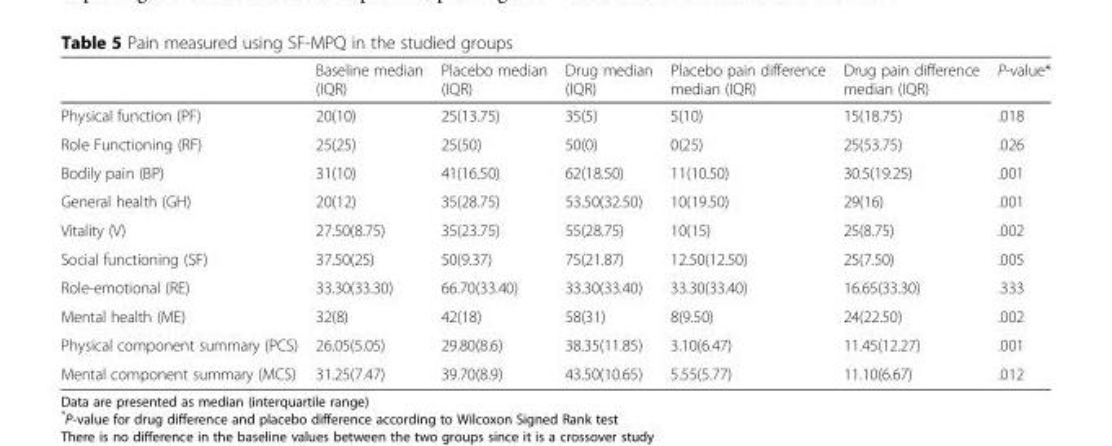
<table><thead><tr><td></td><td>Baseline median (IQR)</td><td>Placebo median (IQR)</td><td>Drug median (IQR)</td><td>Placebo pain difference median (IQR)</td><td>Drug pain difference median (IQR)</td><td>P-value*</td></tr></thead><tbody><tr><td>Physical function (PF)</td><td>20(10)</td><td>25(13.75)</td><td>35(5)</td><td>5(10)</td><td>15(18.75)</td><td>.018</td></tr><tr><td>Role Functioning (RF)</td><td>25(25)</td><td>25(50)</td><td>50(0)</td><td>0(25)</td><td>25(53.75)</td><td>.026</td></tr><tr><td>Bodily pain (BP)</td><td>31(10)</td><td>41(16.50)</td><td>62(18.50)</td><td>11(10.50)</td><td>30.5(19.25)</td><td>.001</td></tr><tr><td>General health (GH)</td><td>20(12)</td><td>35(28.75)</td><td>53.50(32.50)</td><td>10(19.50)</td><td>29(16)</td><td>.001</td></tr><tr><td>Vitality (V)</td><td>27.50(8.75)</td><td>35(23.75)</td><td>55(28.75)</td><td>10(15)</td><td>25(8.75)</td><td>.002</td></tr><tr><td>Social functioning (SF)</td><td>37.50(25)</td><td>50(9.37)</td><td>75(21.87)</td><td>12.50(12.50)</td><td>25(7.50)</td><td>.005</td></tr><tr><td>Role-emotional (RE)</td><td>33.30(33.30)</td><td>66.70(33.40)</td><td>33.30(33.40)</td><td>33.30(33.40)</td><td>16.65(33.30)</td><td>.333</td></tr><tr><td>Mental health (ME)</td><td>32(8)</td><td>42(18)</td><td>58(31)</td><td>8(9.50)</td><td>24(22.50)</td><td>.002</td></tr><tr><td>Physical component summary (PCS)</td><td>26.05(5.05)</td><td>29.80(8.6)</td><td>38.35(11.85)</td><td>3.10(6.47)</td><td>11.45(12.27)</td><td>.001</td></tr><tr><td>Mental component summary (MCS)</td><td>31.25(7.47)</td><td>39.70(8.9)</td><td>43.50(10.65)</td><td>5.55(5.77)</td><td>11.10(6.67)</td><td>.012</td></tr></tbody></table>